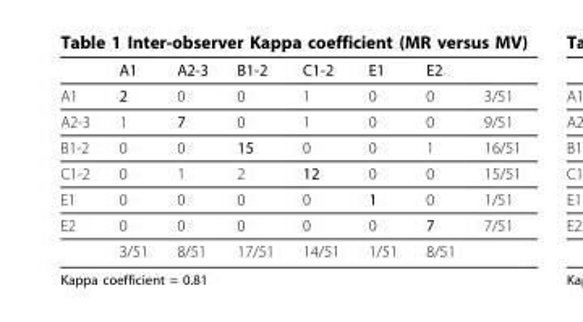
<table><thead><tr><td></td><td>A1</td><td>A2-3</td><td>B1-2</td><td>C1-2</td><td>E1</td><td>E2</td><td></td></tr></thead><tbody><tr><td>A1</td><td>2</td><td>0</td><td>0</td><td>1</td><td>0</td><td>0</td><td>3/51</td></tr><tr><td>A2-3</td><td>1</td><td>7</td><td>0</td><td>1</td><td>0</td><td>0</td><td>9/51</td></tr><tr><td>B1-2</td><td>0</td><td>0</td><td>15</td><td>0</td><td>0</td><td>1</td><td>16/51</td></tr><tr><td>C1-2</td><td>0</td><td>1</td><td>2</td><td>12</td><td>0</td><td>0</td><td>15/51</td></tr><tr><td>E1</td><td>0</td><td>0</td><td>0</td><td>0</td><td>1</td><td>0</td><td>1/51</td></tr><tr><td rowspan="2">E2</td><td>0</td><td>0</td><td>0</td><td>0</td><td>0</td><td>7</td><td>7/51</td></tr><tr><td>3/51</td><td>8/51</td><td>17/51</td><td>14/51</td><td>1/51</td><td>8/51</td><td></td></tr></tbody></table>